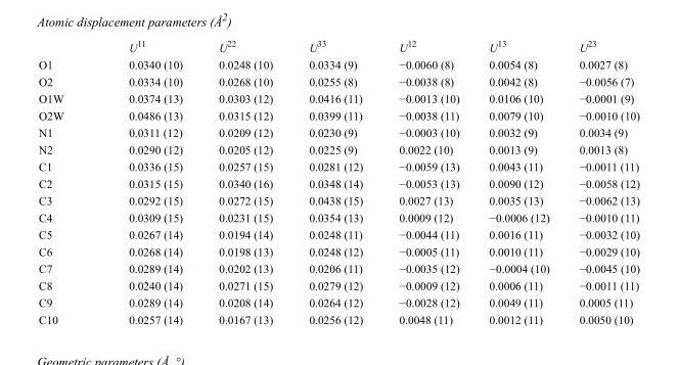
<table><thead><tr><td></td><td>U<sup>11</sup></td><td>U<sup>22</sup></td><td>U<sup>33</sup></td><td>U<sup>12</sup></td><td>U<sup>13</sup></td><td>U<sup>23</sup></td></tr></thead><tbody><tr><td>O1</td><td>0.0340 (10)</td><td>0.0248 (10)</td><td>0.0334 (9)</td><td>−0.0060 (8)</td><td>0.0054 (8)</td><td>0.0027 (8)</td></tr><tr><td>O2</td><td>0.0334 (10)</td><td>0.0268 (10)</td><td>0.0255 (8)</td><td>−0.0038 (8)</td><td>0.0042 (8)</td><td>−0.0056 (7)</td></tr><tr><td>O1W</td><td>0.0374 (13)</td><td>0.0303 (12)</td><td>0.0416 (11)</td><td>−0.0013 (10)</td><td>0.0106 (10)</td><td>−0.0001 (9)</td></tr><tr><td>O2W</td><td>0.0486 (13)</td><td>0.0315 (12)</td><td>0.0399 (11)</td><td>−0.0038 (11)</td><td>0.0079 (10)</td><td>−0.0010 (10)</td></tr><tr><td>N1</td><td>0.0311 (12)</td><td>0.0209 (12)</td><td>0.0230 (9)</td><td>−0.0003 (10)</td><td>0.0032 (9)</td><td>0.0034 (9)</td></tr><tr><td>N2</td><td>0.0290 (12)</td><td>0.0205 (12)</td><td>0.0225 (9)</td><td>0.0022 (10)</td><td>0.0013 (9)</td><td>0.0013 (8)</td></tr><tr><td>C1</td><td>0.0336 (15)</td><td>0.0257 (15)</td><td>0.0281 (12)</td><td>−0.0059 (13)</td><td>0.0043 (11)</td><td>−0.0011 (11)</td></tr><tr><td>C2</td><td>0.0315 (15)</td><td>0.0340 (16)</td><td>0.0348 (14)</td><td>−0.0053 (13)</td><td>0.0090 (12)</td><td>−0.0058 (12)</td></tr><tr><td>C3</td><td>0.0292 (15)</td><td>0.0272 (15)</td><td>0.0438 (15)</td><td>0.0027 (13)</td><td>0.0035 (13)</td><td>−0.0062 (13)</td></tr><tr><td>C4</td><td>0.0309 (15)</td><td>0.0231 (15)</td><td>0.0354 (13)</td><td>0.0009 (12)</td><td>−0.0006 (12)</td><td>−0.0010 (11)</td></tr><tr><td>C5</td><td>0.0267 (14)</td><td>0.0194 (14)</td><td>0.0248 (11)</td><td>−0.0044 (11)</td><td>0.0016 (11)</td><td>−0.0032 (10)</td></tr><tr><td>C6</td><td>0.0268 (14)</td><td>0.0198 (13)</td><td>0.0248 (12)</td><td>−0.0005 (11)</td><td>0.0010 (11)</td><td>−0.0029 (10)</td></tr><tr><td>C7</td><td>0.0289 (14)</td><td>0.0202 (13)</td><td>0.0206 (11)</td><td>−0.0035 (12)</td><td>−0.0004 (10)</td><td>−0.0045 (10)</td></tr><tr><td>C8</td><td>0.0240 (14)</td><td>0.0271 (15)</td><td>0.0279 (12)</td><td>−0.0009 (12)</td><td>0.0006 (11)</td><td>−0.0011 (11)</td></tr><tr><td>C9</td><td>0.0289 (14)</td><td>0.0208 (14)</td><td>0.0264 (12)</td><td>−0.0028 (12)</td><td>0.0049 (11)</td><td>0.0005 (11)</td></tr><tr><td>C10</td><td>0.0257 (14)</td><td>0.0167 (13)</td><td>0.0256 (12)</td><td>0.0048 (11)</td><td>0.0012 (11)</td><td>0.0050 (10)</td></tr></tbody></table>